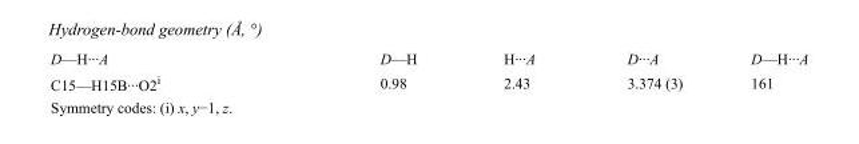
<table><tbody><tr><td>D—H···A</td><td>D—H</td><td>H···A</td><td>D···A</td><td>D—H···A</td></tr><tr><td>C15—H15B···O2<sup>i</sup></td><td>0.98</td><td>2.43</td><td>3.374 (3)</td><td>161</td></tr></tbody></table>